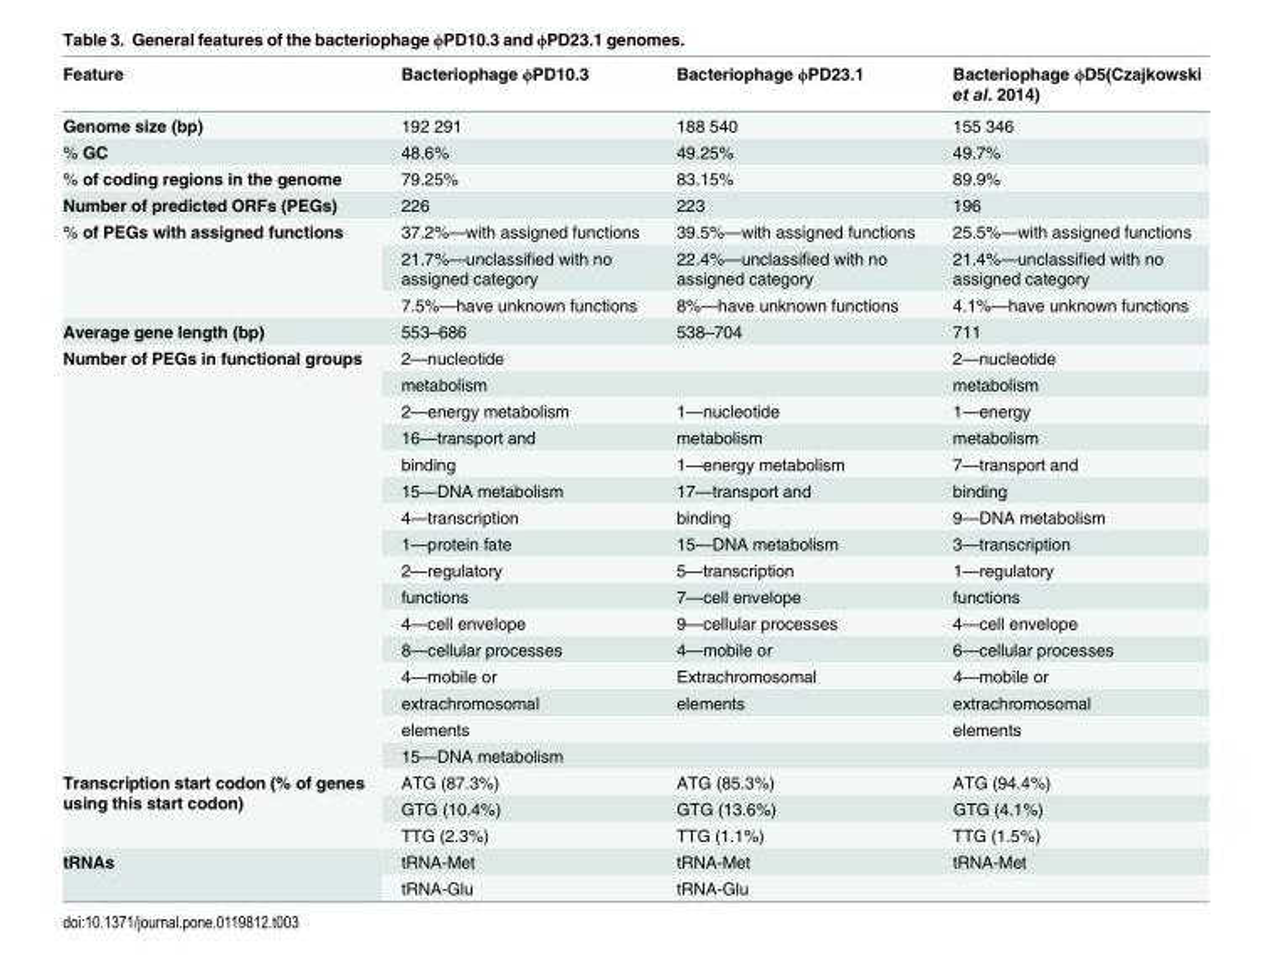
<table><thead><tr><td>Feature</td><td>Bacteriophage ϕPD10.3</td><td>Bacteriophage ϕPD23.1</td><td>Bacteriophage ϕD5(Czajkowski et al. 2014)</td></tr></thead><tbody><tr><td>Genome size (bp)</td><td>192 291</td><td>188 540</td><td>155 346</td></tr><tr><td>% GC</td><td>48.6%</td><td>49.25%</td><td>49.7%</td></tr><tr><td>% of coding regions in the genome</td><td>79.25%</td><td>83.15%</td><td>89.9%</td></tr><tr><td>Number of predicted ORFs (PEGs)</td><td>226</td><td>223</td><td>196</td></tr><tr><td rowspan="3">% of PEGs with assigned functions</td><td>37.2%—with assigned functions</td><td>39.5%—with assigned functions</td><td>25.5%—with assigned functions</td></tr><tr><td>21.7%—unclassified with no assigned category</td><td>22.4%—unclassified with no assigned category</td><td>21.4%—unclassified with no assigned category</td></tr><tr><td>7.5%—have unknown functions</td><td>8%—have unknown functions</td><td>4.1%—have unknown functions</td></tr><tr><td>Average gene length (bp)</td><td>553–686</td><td>538–704</td><td>711</td></tr><tr><td rowspan="16">Number of PEGs in functional groups</td><td>2—nucleotide</td><td></td><td>2—nucleotide</td></tr><tr><td>metabolism</td><td></td><td>metabolism</td></tr><tr><td>2—energy metabolism</td><td>1—nucleotide</td><td>1—energy</td></tr><tr><td>16—transport and</td><td>metabolism</td><td>metabolism</td></tr><tr><td>binding</td><td>1—energy metabolism</td><td>7—transport and</td></tr><tr><td>15—DNA metabolism</td><td>17—transport and</td><td>binding</td></tr><tr><td>4—transcription</td><td>binding</td><td>9—DNA metabolism</td></tr><tr><td>1—protein fate</td><td>15—DNA metabolism</td><td>3—transcription</td></tr><tr><td>2—regulatory</td><td>5—transcription</td><td>1—regulatory</td></tr><tr><td>functions</td><td>7—cell envelope</td><td>functions</td></tr><tr><td>4—cell envelope</td><td>9—cellular processes</td><td>4—cell envelope</td></tr><tr><td>8—cellular processes</td><td>4—mobile or</td><td>6—cellular processes</td></tr><tr><td>4—mobile or</td><td>Extrachromosomal</td><td>4—mobile or</td></tr><tr><td>extrachromosomal</td><td>elements</td><td>extrachromosomal</td></tr><tr><td>elements</td><td></td><td>elements</td></tr><tr><td>15—DNA metabolism</td><td></td><td></td></tr><tr><td rowspan="3">Transcription start codon (% of genes using this start codon)</td><td>ATG (87.3%)</td><td>ATG (85.3%)</td><td>ATG (94.4%)</td></tr><tr><td>GTG (10.4%)</td><td>GTG (13.6%)</td><td>GTG (4.1%)</td></tr><tr><td>TTG (2.3%)</td><td>TTG (1.1%)</td><td>TTG (1.5%)</td></tr><tr><td rowspan="2">tRNAs</td><td>tRNA-Met</td><td>tRNA-Met</td><td>tRNA-Met</td></tr><tr><td>tRNA-Glu</td><td>tRNA-Glu</td><td></td></tr></tbody></table>